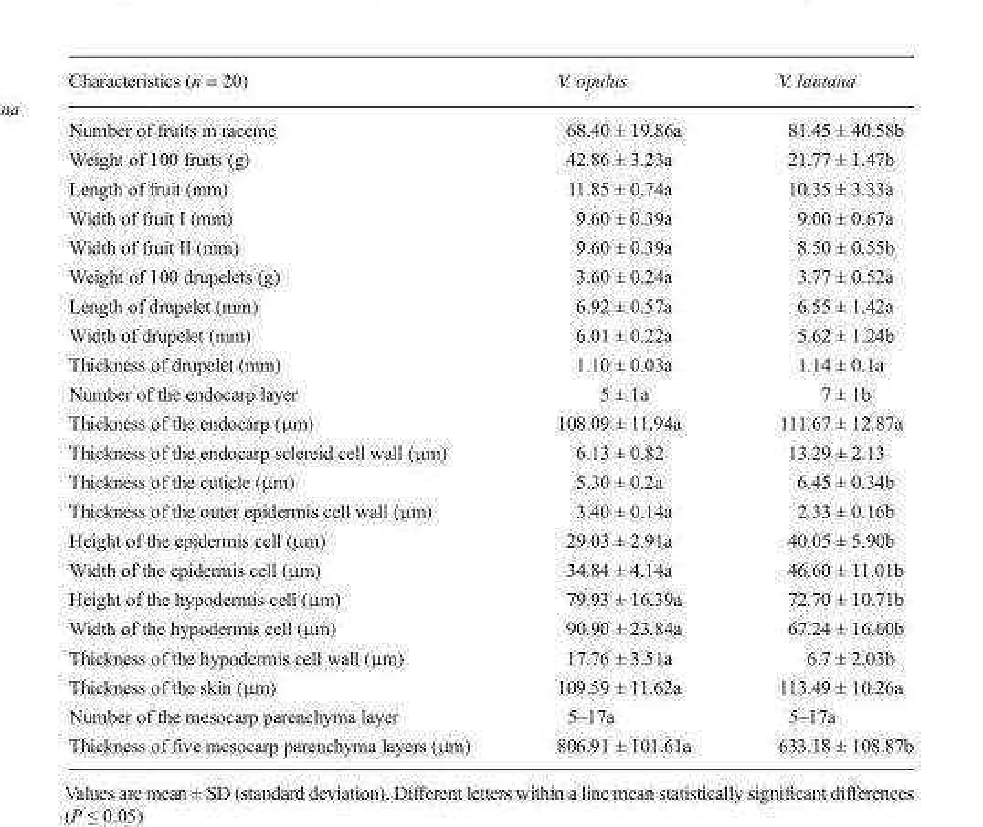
<table><thead><tr><td>Characteristics (n = 20)</td><td>V. opulus</td><td>V. lantana</td></tr></thead><tbody><tr><td>Number of fruits in raceme</td><td>68.40 ± 19.86a</td><td>81.45 ± 40.58b</td></tr><tr><td>Weight of 100 fruits (g)</td><td>42.86 ± 3.23a</td><td>21.77 ± 1.47b</td></tr><tr><td>Length of fruit (mm)</td><td>11.85 ± 0.74a</td><td>10.35 ± 3.33a</td></tr><tr><td>Width of fruit I (mm)</td><td>9.60 ± 0.39a</td><td>9.00 ± 0.67a</td></tr><tr><td>Width of fruit II (mm)</td><td>9.60 ± 0.39a</td><td>8.50 ± 0.55b</td></tr><tr><td>Weight of 100 drupelets (g)</td><td>3.60 ± 0.24a</td><td>3.77 ± 0.52a</td></tr><tr><td>Length of drupelet (mm)</td><td>6.92 ± 0.57a</td><td>6.55 ± 1.42a</td></tr><tr><td>Width of drupelet (mm)</td><td>6.01 ± 0.22a</td><td>5.62 ± 1.24b</td></tr><tr><td>Thickness of drupelet (mm)</td><td>1.10 ± 0.03a</td><td>1.14 ± 0.1a</td></tr><tr><td>Number of the endocarp layer</td><td>5 ± 1a</td><td>7 ± 1b</td></tr><tr><td>Thickness of the endocarp (μm)</td><td>108.09 ± 11.94a</td><td>111.67 ± 12.87a</td></tr><tr><td>Thickness of the endocarp sclereid cell wall (μm)</td><td>6.13 ± 0.82</td><td>13.29 ± 2.13</td></tr><tr><td>Thickness of the cuticle (μm)</td><td>5.30 ± 0.2a</td><td>6.45 ± 0.34b</td></tr><tr><td>Thickness of the outer epidermis cell wall (μm)</td><td>3.40 ± 0.14a</td><td>2.33 ± 0.16b</td></tr><tr><td>Height of the epidermis cell (μm)</td><td>29.03 ± 2.91a</td><td>40.05 ± 5.90b</td></tr><tr><td>Width of the epidermis cell (μm)</td><td>34.84 ± 4.14a</td><td>46.60 ± 11.01b</td></tr><tr><td>Height of the hypodermis cell (μm)</td><td>79.93 ± 16.39a</td><td>72.70 ± 10.71b</td></tr><tr><td>Width of the hypodermis cell (μm)</td><td>90.90 ± 23.84a</td><td>67.24 ± 16.60b</td></tr><tr><td>Thickness of the hypodermis cell wall (μm)</td><td>17.76 ± 3.51a</td><td>6.7 ± 2.03b</td></tr><tr><td>Thickness of the skin (μm)</td><td>109.59 ± 11.62a</td><td>113.49 ± 10.26a</td></tr><tr><td>Number of the mesocarp parenchyma layer</td><td>5–17a</td><td>5–17a</td></tr><tr><td>Thickness of five mesocarp parenchyma layers (μm)</td><td>806.91 ± 101.61a</td><td>633.18 ± 108.87b</td></tr></tbody></table>